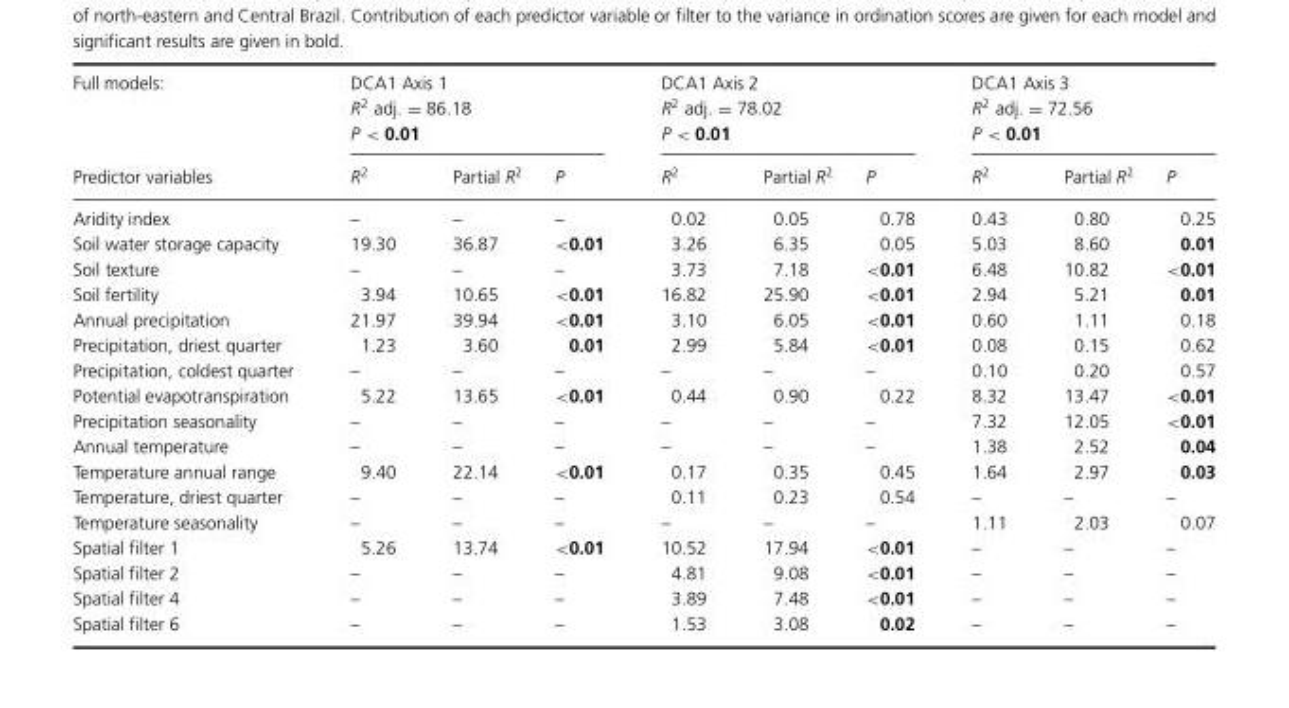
<table><thead><tr><td rowspan="2">Full models: Predictor variables</td><td colspan="3">DCA1 Axis 1 R<sup>2</sup> adj. = 86.18 P &lt; 0.01</td><td colspan="3">DCA1 Axis 2 R<sup>2</sup> adj. = 78.02 P &lt; 0.01</td><td colspan="3">DCA1 Axis 3 R<sup>2</sup> adj. = 72.56 P &lt; 0.01</td></tr><tr><td>R<sup>2</sup></td><td>Partial R<sup>2</sup></td><td>P</td><td>R<sup>2</sup></td><td>Partial R<sup>2</sup></td><td>P</td><td>R<sup>2</sup></td><td>Partial R<sup>2</sup></td><td>P</td></tr></thead><tbody><tr><td>Aridity index</td><td>–</td><td>–</td><td>–</td><td>0.02</td><td>0.05</td><td>0.78</td><td>0.43</td><td>0.80</td><td>0.25</td></tr><tr><td>Soil water storage capacity</td><td>19.30</td><td>36.87</td><td>&lt;0.01</td><td>3.26</td><td>6.35</td><td>0.05</td><td>5.03</td><td>8.60</td><td>0.01</td></tr><tr><td>Soil texture</td><td>–</td><td>–</td><td>–</td><td>3.73</td><td>7.18</td><td>&lt;0.01</td><td>6.48</td><td>10.82</td><td>&lt;0.01</td></tr><tr><td>Soil fertility</td><td>3.94</td><td>10.65</td><td>&lt;0.01</td><td>16.82</td><td>25.90</td><td>&lt;0.01</td><td>2.94</td><td>5.21</td><td>0.01</td></tr><tr><td>Annual precipitation</td><td>21.97</td><td>39.94</td><td>&lt;0.01</td><td>3.10</td><td>6.05</td><td>&lt;0.01</td><td>0.60</td><td>1.11</td><td>0.18</td></tr><tr><td>Precipitation, driest quarter</td><td>1.23</td><td>3.60</td><td>0.01</td><td>2.99</td><td>5.84</td><td>&lt;0.01</td><td>0.08</td><td>0.15</td><td>0.62</td></tr><tr><td>Precipitation, coldest quarter</td><td>–</td><td>–</td><td>–</td><td>–</td><td>–</td><td>–</td><td>0.10</td><td>0.20</td><td>0.57</td></tr><tr><td>Potential evapotranspiration</td><td>5.22</td><td>13.65</td><td>&lt;0.01</td><td>0.44</td><td>0.90</td><td>0.22</td><td>8.32</td><td>13.47</td><td>&lt;0.01</td></tr><tr><td>Precipitation seasonality</td><td>–</td><td>–</td><td>–</td><td>–</td><td>–</td><td>–</td><td>7.32</td><td>12.05</td><td>&lt;0.01</td></tr><tr><td>Annual temperature</td><td>–</td><td>–</td><td>–</td><td>–</td><td>–</td><td>–</td><td>1.38</td><td>2.52</td><td>0.04</td></tr><tr><td>Temperature annual range</td><td>9.40</td><td>22.14</td><td>&lt;0.01</td><td>0.17</td><td>0.35</td><td>0.45</td><td>1.64</td><td>2.97</td><td>0.03</td></tr><tr><td>Temperature, driest quarter</td><td>–</td><td>–</td><td>–</td><td>0.11</td><td>0.23</td><td>0.54</td><td>–</td><td>–</td><td>–</td></tr><tr><td>Temperature seasonality</td><td>–</td><td>–</td><td>–</td><td>–</td><td>–</td><td>–</td><td>1.11</td><td>2.03</td><td>0.07</td></tr><tr><td>Spatial filter 1</td><td>5.26</td><td>13.74</td><td>&lt;0.01</td><td>10.52</td><td>17.94</td><td>&lt;0.01</td><td>–</td><td>–</td><td>–</td></tr><tr><td>Spatial filter 2</td><td>–</td><td>–</td><td>–</td><td>4.81</td><td>9.08</td><td>&lt;0.01</td><td>–</td><td>–</td><td>–</td></tr><tr><td>Spatial filter 4</td><td>–</td><td>–</td><td>–</td><td>3.89</td><td>7.48</td><td>&lt;0.01</td><td>–</td><td>–</td><td>–</td></tr><tr><td>Spatial filter 6</td><td>–</td><td>–</td><td>–</td><td>1.53</td><td>3.08</td><td>0.02</td><td>–</td><td>–</td><td>–</td></tr></tbody></table>